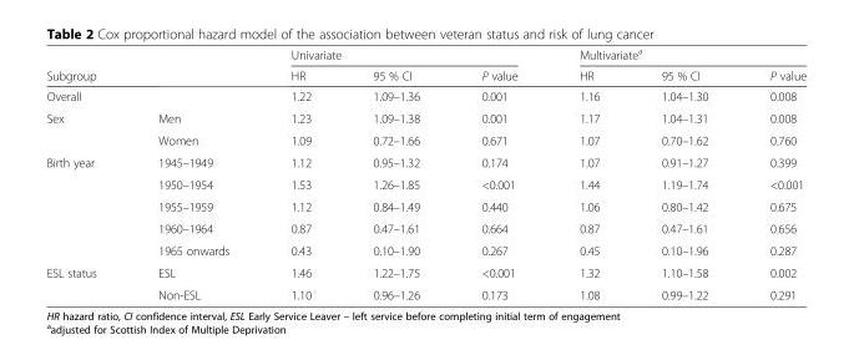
<table><thead><tr><td rowspan="2">Subgroup</td><td rowspan="2"></td><td colspan="3">Univariate</td><td colspan="3">Multivariate<sup>a</sup></td></tr><tr><td>HR</td><td>95 % CI</td><td>P value</td><td>HR</td><td>95 % CI</td><td>P value</td></tr></thead><tbody><tr><td>Overall</td><td></td><td>1.22</td><td>1.09–1.36</td><td>0.001</td><td>1.16</td><td>1.04–1.30</td><td>0.008</td></tr><tr><td rowspan="2">Sex</td><td>Men</td><td>1.23</td><td>1.09–1.38</td><td>0.001</td><td>1.17</td><td>1.04–1.31</td><td>0.008</td></tr><tr><td>Women</td><td>1.09</td><td>0.72–1.66</td><td>0.671</td><td>1.07</td><td>0.70–1.62</td><td>0.760</td></tr><tr><td rowspan="5">Birth year</td><td>1945–1949</td><td>1.12</td><td>0.95–1.32</td><td>0.174</td><td>1.07</td><td>0.91–1.27</td><td>0.399</td></tr><tr><td>1950–1954</td><td>1.53</td><td>1.26–1.85</td><td>&lt;0.001</td><td>1.44</td><td>1.19–1.74</td><td>&lt;0.001</td></tr><tr><td>1955–1959</td><td>1.12</td><td>0.84–1.49</td><td>0.440</td><td>1.06</td><td>0.80–1.42</td><td>0.675</td></tr><tr><td>1960–1964</td><td>0.87</td><td>0.47–1.61</td><td>0.664</td><td>0.87</td><td>0.47–1.61</td><td>0.656</td></tr><tr><td>1965 onwards</td><td>0.43</td><td>0.10–1.90</td><td>0.267</td><td>0.45</td><td>0.10–1.96</td><td>0.287</td></tr><tr><td rowspan="2">ESL status</td><td>ESL</td><td>1.46</td><td>1.22–1.75</td><td>&lt;0.001</td><td>1.32</td><td>1.10–1.58</td><td>0.002</td></tr><tr><td>Non-ESL</td><td>1.10</td><td>0.96–1.26</td><td>0.173</td><td>1.08</td><td>0.99–1.22</td><td>0.291</td></tr></tbody></table>